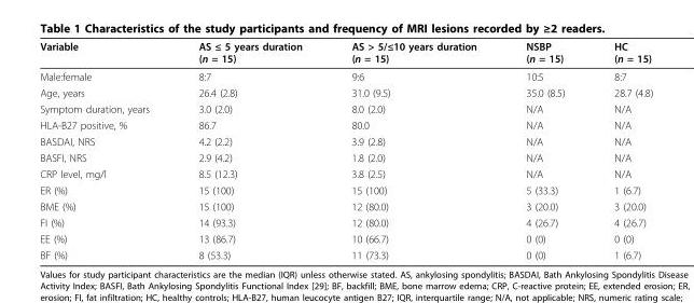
<table><thead><tr><td>Variable</td><td>AS ≤ 5 years duration (n = 15)</td><td>AS &gt; 5/≤10 years duration (n = 15)</td><td>NSBP (n = 15)</td><td>HC (n = 15)</td></tr></thead><tbody><tr><td>Male:female</td><td>8:7</td><td>9:6</td><td>10:5</td><td>8:7</td></tr><tr><td>Age, years</td><td>26.4 (2.8)</td><td>31.0 (9.5)</td><td>35.0 (8.5)</td><td>28.7 (4.8)</td></tr><tr><td>Symptom duration, years</td><td>3.0 (2.0)</td><td>8.0 (2.0)</td><td>N/A</td><td>N/A</td></tr><tr><td>HLA-B27 positive, %</td><td>86.7</td><td>80.0</td><td>N/A</td><td>N/A</td></tr><tr><td>BASDAI, NRS</td><td>4.2 (2.2)</td><td>3.9 (2.8)</td><td>N/A</td><td>N/A</td></tr><tr><td>BASFI, NRS</td><td>2.9 (4.2)</td><td>1.8 (2.0)</td><td>N/A</td><td>N/A</td></tr><tr><td>CRP level, mg/l</td><td>8.5 (12.3)</td><td>3.8 (2.5)</td><td>N/A</td><td>N/A</td></tr><tr><td>ER (%)</td><td>15 (100)</td><td>15 (100)</td><td>5 (33.3)</td><td>1 (6.7)</td></tr><tr><td>BME (%)</td><td>15 (100)</td><td>12 (80.0)</td><td>3 (20.0)</td><td>3 (20.0)</td></tr><tr><td>FI (%)</td><td>14 (93.3)</td><td>12 (80.0)</td><td>4 (26.7)</td><td>4 (26.7)</td></tr><tr><td>EE (%)</td><td>13 (86.7)</td><td>10 (66.7)</td><td>0 (0)</td><td>0 (0)</td></tr><tr><td>BF (%)</td><td>8 (53.3)</td><td>11 (73.3)</td><td>0 (0)</td><td>1 (6.7)</td></tr></tbody></table>